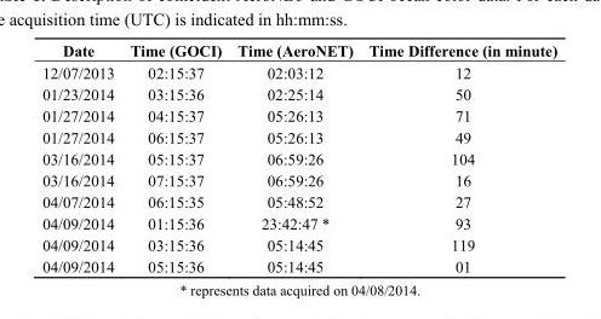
<table><thead><tr><td>Date</td><td>Time (GOCI)</td><td>Time (AeroNET)</td><td>Time Difference (in minute)</td></tr></thead><tbody><tr><td>12/07/2013</td><td>02:15:37</td><td>02:03:12</td><td>12</td></tr><tr><td>01/23/2014</td><td>03:15:36</td><td>02:25:14</td><td>50</td></tr><tr><td>01/27/2014</td><td>04:15:37</td><td>05:26:13</td><td>71</td></tr><tr><td>01/27/2014</td><td>06:15:37</td><td>05:26:13</td><td>49</td></tr><tr><td>03/16/2014</td><td>05:15:37</td><td>06:59:26</td><td>104</td></tr><tr><td>03/16/2014</td><td>07:15:37</td><td>06:59:26</td><td>16</td></tr><tr><td>04/07/2014</td><td>06:15:35</td><td>05:48:52</td><td>27</td></tr><tr><td>04/09/2014</td><td>01:15:36</td><td>23:42:47 *</td><td>93</td></tr><tr><td>04/09/2014</td><td>03:15:36</td><td>05:14:45</td><td>119</td></tr><tr><td>04/09/2014</td><td>05:15:36</td><td>05:14:45</td><td>01</td></tr></tbody></table>